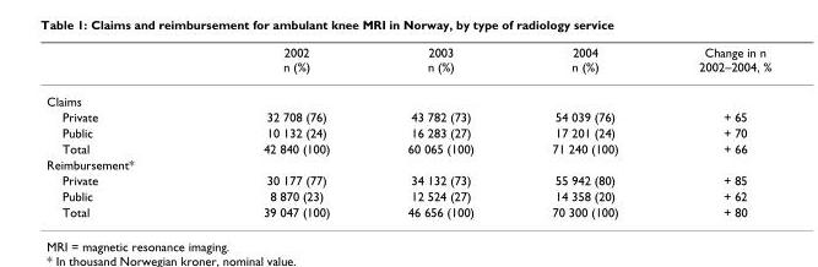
<table><thead><tr><td></td><td>2002 n (%)</td><td>2003 n (%)</td><td>2004 n (%)</td><td>Change in n 2002–2004, %</td></tr></thead><tbody><tr><td colspan="5">Claims</td></tr><tr><td>Private</td><td>32 708 (76)</td><td>43 782 (73)</td><td>54 039 (76)</td><td>+ 65</td></tr><tr><td>Public</td><td>10 132 (24)</td><td>16 283 (27)</td><td>17 201 (24)</td><td>+ 70</td></tr><tr><td>Total</td><td>42 840 (100)</td><td>60 065 (100)</td><td>71 240 (100)</td><td>+ 66</td></tr><tr><td colspan="5">Reimbursement*</td></tr><tr><td>Private</td><td>30 177 (77)</td><td>34 132 (73)</td><td>55 942 (80)</td><td>+ 85</td></tr><tr><td>Public</td><td>8 870 (23)</td><td>12 524 (27)</td><td>14 358 (20)</td><td>+ 62</td></tr><tr><td>Total</td><td>39 047 (100)</td><td>46 656 (100)</td><td>70 300 (100)</td><td>+ 80</td></tr></tbody></table>